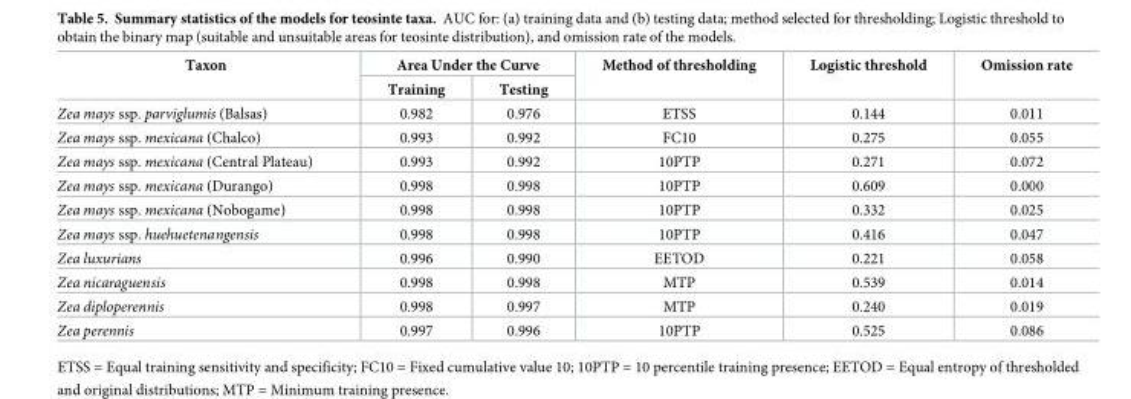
<table><thead><tr><td rowspan="2">Taxon</td><td colspan="2">Area Under the Curve</td><td rowspan="2">Method of thresholding</td><td rowspan="2">Logistic threshold</td><td rowspan="2">Omission rate</td></tr><tr><td>Training</td><td>Testing</td></tr></thead><tbody><tr><td>Zea mays ssp. parviglumis (Balsas)</td><td>0.982</td><td>0.976</td><td>ETSS</td><td>0.144</td><td>0.011</td></tr><tr><td>Zea mays ssp. mexicana (Chalco)</td><td>0.993</td><td>0.992</td><td>FC10</td><td>0.275</td><td>0.055</td></tr><tr><td>Zea mays ssp. mexicana (Central Plateau)</td><td>0.993</td><td>0.992</td><td>10PTP</td><td>0.271</td><td>0.072</td></tr><tr><td>Zea mays ssp. mexicana (Durango)</td><td>0.998</td><td>0.998</td><td>10PTP</td><td>0.609</td><td>0.000</td></tr><tr><td>Zea mays ssp. mexicana (Nobogame)</td><td>0.998</td><td>0.998</td><td>10PTP</td><td>0.332</td><td>0.025</td></tr><tr><td>Zea mays ssp. huehuetenangensis</td><td>0.998</td><td>0.998</td><td>10PTP</td><td>0.416</td><td>0.047</td></tr><tr><td>Zea luxurians</td><td>0.996</td><td>0.990</td><td>EETOD</td><td>0.221</td><td>0.058</td></tr><tr><td>Zea nicaraguensis</td><td>0.998</td><td>0.998</td><td>MTP</td><td>0.539</td><td>0.014</td></tr><tr><td>Zea diploperennis</td><td>0.998</td><td>0.997</td><td>MTP</td><td>0.240</td><td>0.019</td></tr><tr><td>Zea perennis</td><td>0.997</td><td>0.996</td><td>10PTP</td><td>0.525</td><td>0.086</td></tr></tbody></table>